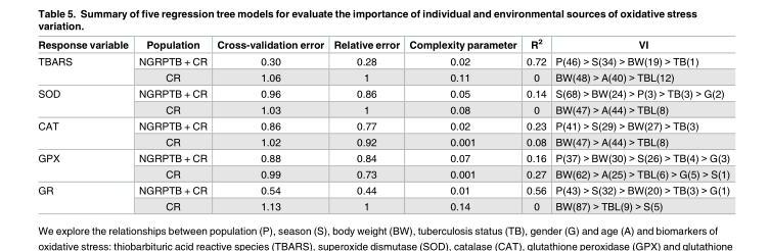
<table><thead><tr><td>Response variable</td><td>Population</td><td>Cross-validation error</td><td>Relative error</td><td>Complexity parameter</td><td>R<sup>2</sup></td><td>VI</td></tr></thead><tbody><tr><td rowspan="2">TBARS</td><td>NGRPTB + CR</td><td>0.30</td><td>0.28</td><td>0.02</td><td>0.72</td><td>P(46) &gt; S(34) &gt; BW(19) &gt; TB(1)</td></tr><tr><td>CR</td><td>1.06</td><td>1</td><td>0.11</td><td>0</td><td>BW(48) &gt; A(40) &gt; TBL(12)</td></tr><tr><td rowspan="2">SOD</td><td>NGRPTB + CR</td><td>0.96</td><td>0.86</td><td>0.05</td><td>0.14</td><td>S(68) &gt; BW(24) &gt; P(3) &gt; TB(3) &gt; G(2)</td></tr><tr><td>CR</td><td>1.03</td><td>1</td><td>0.08</td><td>0</td><td>BW(47) &gt; A(44) &gt; TBL(8)</td></tr><tr><td rowspan="2">CAT</td><td>NGRPTB + CR</td><td>0.86</td><td>0.77</td><td>0.02</td><td>0.23</td><td>P(41) &gt; S(29) &gt; BW(27) &gt; TB(3)</td></tr><tr><td>CR</td><td>1.02</td><td>0.92</td><td>0.001</td><td>0.08</td><td>BW(47) &gt; A(44) &gt; TBL(8)</td></tr><tr><td rowspan="2">GPX</td><td>NGRPTB + CR</td><td>0.88</td><td>0.84</td><td>0.07</td><td>0.16</td><td>P(37) &gt; BW(30) &gt; S(26) &gt; TB(4) &gt; G(3)</td></tr><tr><td>CR</td><td>0.99</td><td>0.73</td><td>0.001</td><td>0.27</td><td>BW(62) &gt; A(25) &gt; TBL(6) &gt; G(5) &gt; S(1)</td></tr><tr><td rowspan="2">GR</td><td>NGRPTB + CR</td><td>0.54</td><td>0.44</td><td>0.01</td><td>0.56</td><td>P(43) &gt; S(32) &gt; BW(20) &gt; TB(3) &gt; G(1)</td></tr><tr><td>CR</td><td>1.13</td><td>1</td><td>0.14</td><td>0</td><td>BW(87) &gt; TBL(9) &gt; S(5)</td></tr></tbody></table>